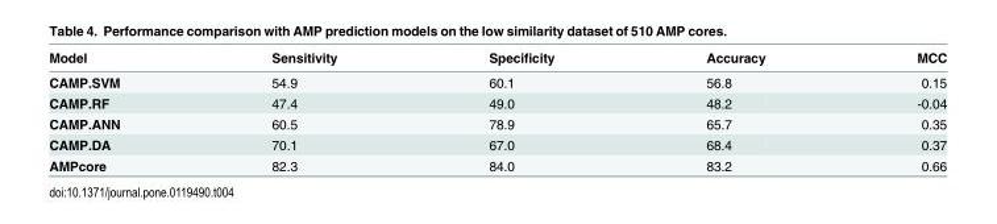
<table><thead><tr><td>Model</td><td>Sensitivity</td><td>Specificity</td><td>Accuracy</td><td>MCC</td></tr></thead><tbody><tr><td>CAMP.SVM</td><td>54.9</td><td>60.1</td><td>56.8</td><td>0.15</td></tr><tr><td>CAMP.RF</td><td>47.4</td><td>49.0</td><td>48.2</td><td>-0.04</td></tr><tr><td>CAMP.ANN</td><td>60.5</td><td>78.9</td><td>65.7</td><td>0.35</td></tr><tr><td>CAMP.DA</td><td>70.1</td><td>67.0</td><td>68.4</td><td>0.37</td></tr><tr><td>AMPcore</td><td>82.3</td><td>84.0</td><td>83.2</td><td>0.66</td></tr></tbody></table>